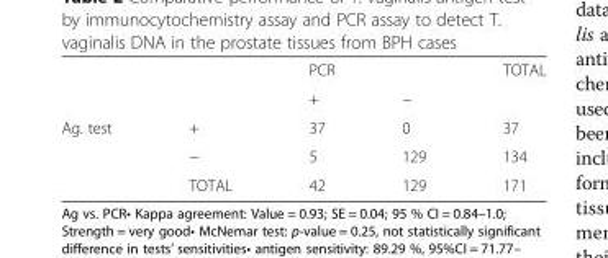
<table><thead><tr><td rowspan="2"></td><td rowspan="2"></td><td colspan="2">PCR</td><td rowspan="2">TOTAL</td></tr><tr><td>+</td><td>−</td></tr></thead><tbody><tr><td rowspan="3">Ag. test</td><td>+</td><td>37</td><td>0</td><td>37</td></tr><tr><td>−</td><td>5</td><td>129</td><td>134</td></tr><tr><td>TOTAL</td><td>42</td><td>129</td><td>171</td></tr></tbody></table>